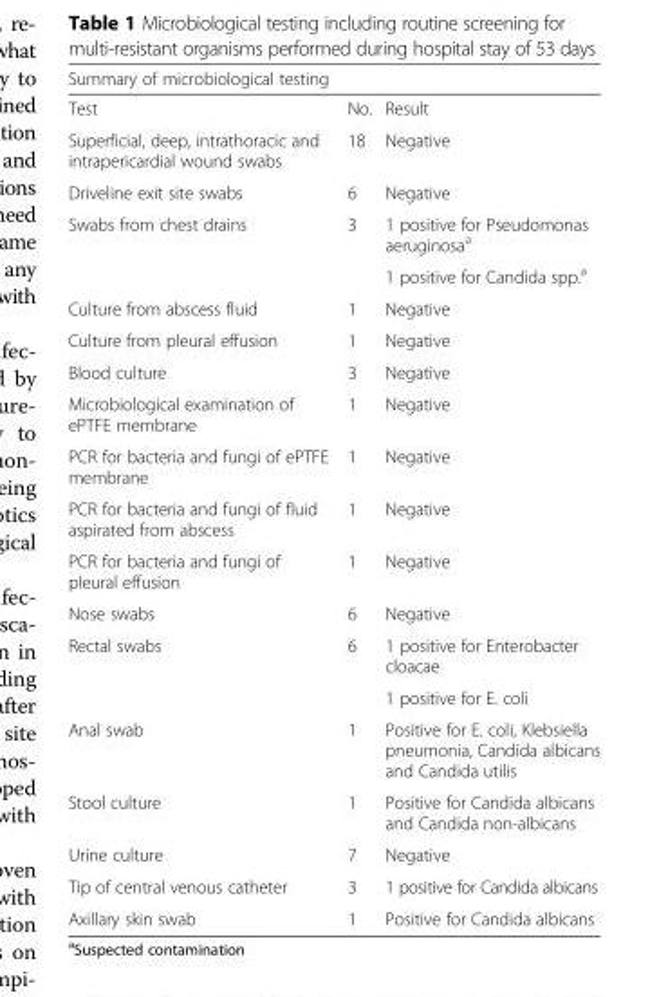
<table><thead><tr><td colspan="3">Summary of microbiological testing</td></tr><tr><td>Test</td><td>No.</td><td>Result</td></tr></thead><tbody><tr><td>Superficial, deep, intrathoracic and intrapericardial wound swabs</td><td>18</td><td>Negative</td></tr><tr><td>Driveline exit site swabs</td><td>6</td><td>Negative</td></tr><tr><td rowspan="2">Swabs from chest drains</td><td>3</td><td>1 positive for Pseudomonas aeruginosa<sup>a</sup></td></tr><tr><td></td><td>1 positive for Candida spp.<sup>a</sup></td></tr><tr><td>Culture from abscess fluid</td><td>1</td><td>Negative</td></tr><tr><td>Culture from pleural effusion</td><td>1</td><td>Negative</td></tr><tr><td>Blood culture</td><td>3</td><td>Negative</td></tr><tr><td>Microbiological examination of ePTFE membrane</td><td>1</td><td>Negative</td></tr><tr><td>PCR for bacteria and fungi of ePTFE membrane</td><td>1</td><td>Negative</td></tr><tr><td>PCR for bacteria and fungi of fluid aspirated from abscess</td><td>1</td><td>Negative</td></tr><tr><td>PCR for bacteria and fungi of pleural effusion</td><td>1</td><td>Negative</td></tr><tr><td>Nose swabs</td><td>6</td><td>Negative</td></tr><tr><td rowspan="2">Rectal swabs</td><td>6</td><td>1 positive for Enterobacter cloacae</td></tr><tr><td></td><td>1 positive for E. coli</td></tr><tr><td>Anal swab</td><td>1</td><td>Positive for E. coli, Klebsiella pneumonia, Candida albicans and Candida utilis</td></tr><tr><td>Stool culture</td><td>1</td><td>Positive for Candida albicans and Candida non-albicans</td></tr><tr><td>Urine culture</td><td>7</td><td>Negative</td></tr><tr><td>Tip of central venous catheter</td><td>3</td><td>1 positive for Candida albicans</td></tr><tr><td>Axillary skin swab</td><td>1</td><td>Positive for Candida albicans</td></tr></tbody></table>